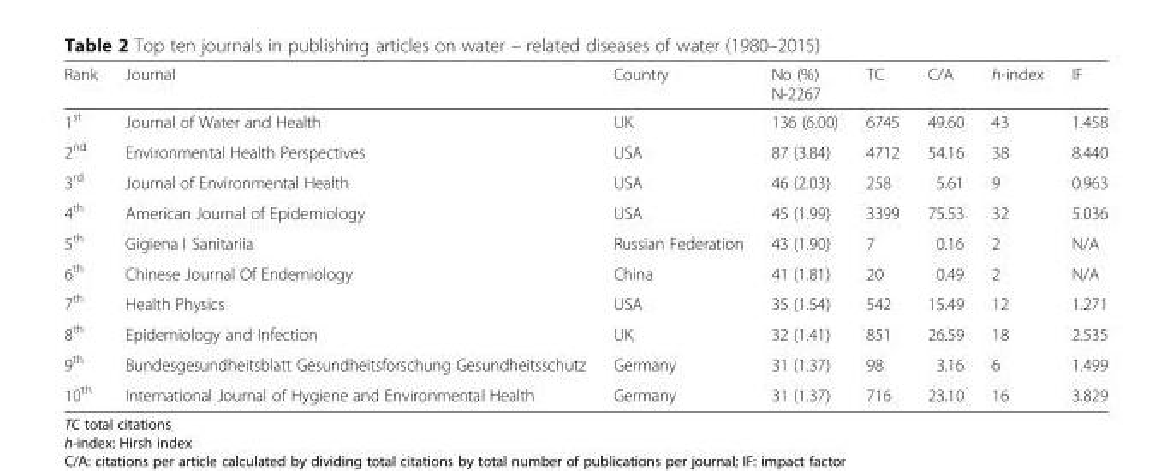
<table><thead><tr><td>Rank</td><td>Journal</td><td>Country</td><td>No (%) N-2267</td><td>TC</td><td>C/A</td><td>h-index</td><td>IF</td></tr></thead><tbody><tr><td>1<sup>st</sup></td><td>Journal of Water and Health</td><td>UK</td><td>136 (6.00)</td><td>6745</td><td>49.60</td><td>43</td><td>1.458</td></tr><tr><td>2<sup>nd</sup></td><td>Environmental Health Perspectives</td><td>USA</td><td>87 (3.84)</td><td>4712</td><td>54.16</td><td>38</td><td>8.440</td></tr><tr><td>3<sup>rd</sup></td><td>Journal of Environmental Health</td><td>USA</td><td>46 (2.03)</td><td>258</td><td>5.61</td><td>9</td><td>0.963</td></tr><tr><td>4<sup>th</sup></td><td>American Journal of Epidemiology</td><td>USA</td><td>45 (1.99)</td><td>3399</td><td>75.53</td><td>32</td><td>5.036</td></tr><tr><td>5<sup>th</sup></td><td>Gigiena I Sanitariia</td><td>Russian Federation</td><td>43 (1.90)</td><td>7</td><td>0.16</td><td>2</td><td>N/A</td></tr><tr><td>6<sup>th</sup></td><td>Chinese Journal Of Endemiology</td><td>China</td><td>41 (1.81)</td><td>20</td><td>0.49</td><td>2</td><td>N/A</td></tr><tr><td>7<sup>th</sup></td><td>Health Physics</td><td>USA</td><td>35 (1.54)</td><td>542</td><td>15.49</td><td>12</td><td>1.271</td></tr><tr><td>8<sup>th</sup></td><td>Epidemiology and Infection</td><td>UK</td><td>32 (1.41)</td><td>851</td><td>26.59</td><td>18</td><td>2.535</td></tr><tr><td>9<sup>th</sup></td><td>Bundesgesundheitsblatt Gesundheitsforschung Gesundheitsschutz</td><td>Germany</td><td>31 (1.37)</td><td>98</td><td>3.16</td><td>6</td><td>1.499</td></tr><tr><td>10<sup>th</sup></td><td>International Journal of Hygiene and Environmental Health</td><td>Germany</td><td>31 (1.37)</td><td>716</td><td>23.10</td><td>16</td><td>3.829</td></tr></tbody></table>